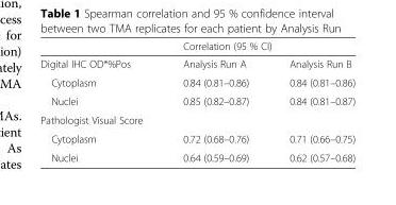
<table><thead><tr><td rowspan="2">Digital IHC OD*%Pos</td><td colspan="2">Correlation (95 % CI)</td></tr><tr><td>Analysis Run A</td><td>Analysis Run B</td></tr></thead><tbody><tr><td>Cytoplasm</td><td>0.84 (0.81–0.86)</td><td>0.84 (0.81–0.86)</td></tr><tr><td>Nuclei</td><td>0.85 (0.82–0.87)</td><td>0.84 (0.81–0.87)</td></tr><tr><td colspan="3">Pathologist Visual Score</td></tr><tr><td>Cytoplasm</td><td>0.72 (0.68–0.76)</td><td>0.71 (0.66–0.75)</td></tr><tr><td>Nuclei</td><td>0.64 (0.59–0.69)</td><td>0.62 (0.57–0.68)</td></tr></tbody></table>